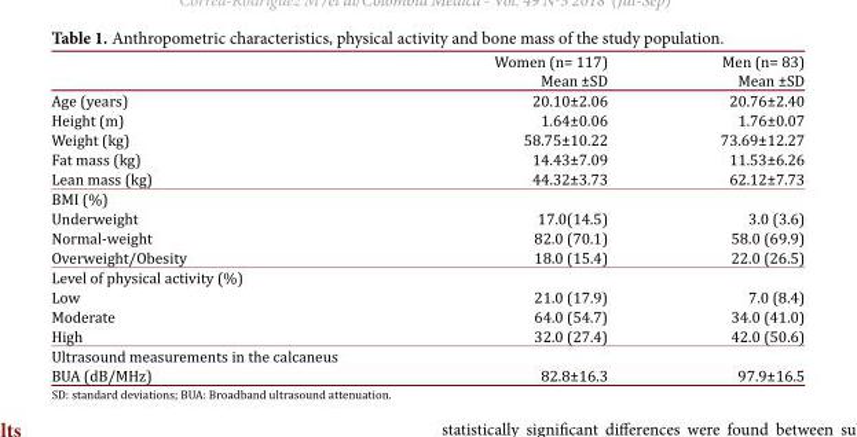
<table><thead><tr><td rowspan="2"></td><td rowspan="2">Women (n= 117) Mean ±SD</td><td rowspan="2">Men (n= 83) Mean ±SD</td></tr><tr></tr></thead><tbody><tr><td>Age (years)</td><td>20.10±2.06</td><td>20.76±2.40</td></tr><tr><td>Height (m)</td><td>1.64±0.06</td><td>1.76±0.07</td></tr><tr><td>Weight (kg)</td><td>58.75±10.22</td><td>73.69±12.27</td></tr><tr><td>Fat mass (kg)</td><td>14.43±7.09</td><td>11.53±6.26</td></tr><tr><td>Lean mass (kg)</td><td>44.32±3.73</td><td>62.12±7.73</td></tr><tr><td colspan="3">BMI (%)</td></tr><tr><td>Underweight</td><td>17.0(14.5)</td><td>3.0 (3.6)</td></tr><tr><td>Normal-weight</td><td>82.0 (70.1)</td><td>58.0 (69.9)</td></tr><tr><td>Overweight/Obesity</td><td>18.0 (15.4)</td><td>22.0 (26.5)</td></tr><tr><td colspan="3">Level of physical activity (%)</td></tr><tr><td>Low</td><td>21.0 (17.9)</td><td>7.0 (8.4)</td></tr><tr><td>Moderate</td><td>64.0 (54.7)</td><td>34.0 (41.0)</td></tr><tr><td>High</td><td>32.0 (27.4)</td><td>42.0 (50.6)</td></tr><tr><td colspan="3">Ultrasound measurements in the calcaneus</td></tr><tr><td>BUA (dB/MHz)</td><td>82.8±16.3</td><td>97.9±16.5</td></tr></tbody></table>